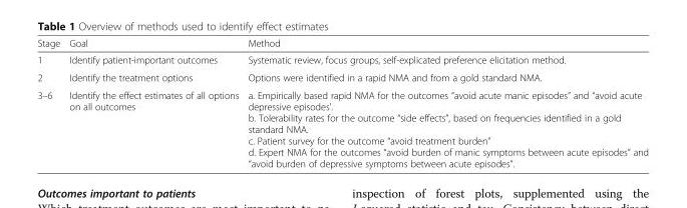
<table><thead><tr><td>Stage</td><td>Goal</td><td>Method</td></tr></thead><tbody><tr><td>1</td><td>Identify patient-important outcomes</td><td>Systematic review, focus groups, self-explicated preference elicitation method.</td></tr><tr><td>2</td><td>Identify the treatment options</td><td>Options were identified in a rapid NMA and from a gold standard NMA.</td></tr><tr><td>3–6</td><td>Identify the effect estimates of all options on all outcomes</td><td>a. Empirically based rapid NMA for the outcomes “avoid acute manic episodes” and “avoid acute depressive episodes’. b. Tolerability rates for the outcome “side effects”, based on frequencies identified in a gold standard NMA. c. Patient survey for the outcome “avoid treatment burden” d. Expert NMA for the outcomes “avoid burden of manic symptoms between acute episodes” and “avoid burden of depressive symptoms between acute episodes”.</td></tr></tbody></table>